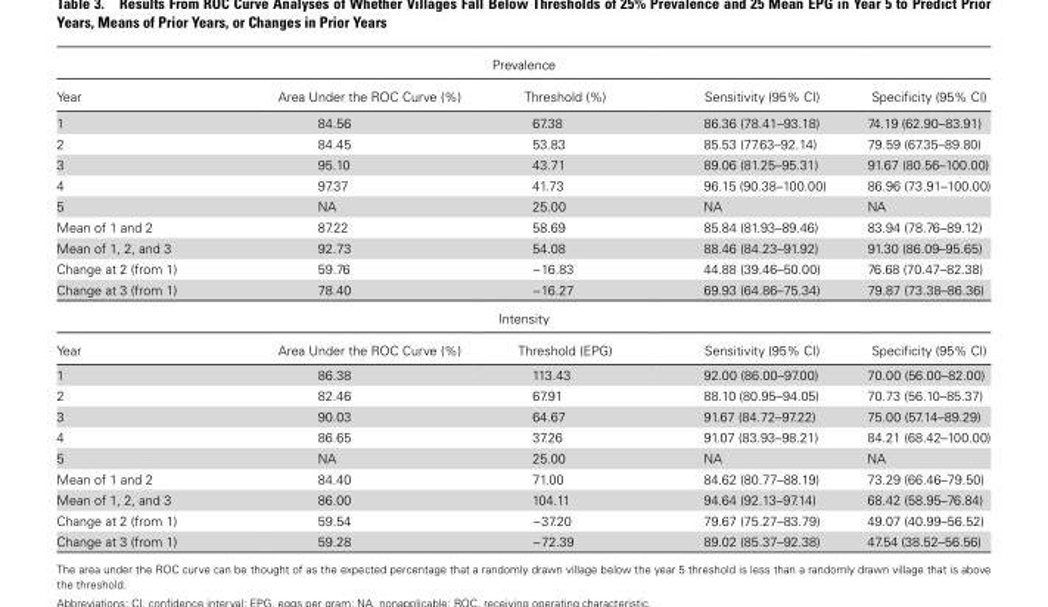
<table><thead><tr><td colspan="5">Prevalence</td></tr><tr><td>Year</td><td>Area Under the ROC Curve (%)</td><td>Threshold (%)</td><td>Sensitivity (95% CI)</td><td>Specificity (95% CI)</td></tr></thead><tbody><tr><td>1</td><td>84.56</td><td>67.38</td><td>86.36 (78.41–93.18)</td><td>74.19 (62.90–83.91)</td></tr><tr><td>2</td><td>84.45</td><td>53.83</td><td>85.53 (77.63–92.14)</td><td>79.59 (67.35–89.80)</td></tr><tr><td>3</td><td>95.10</td><td>43.71</td><td>89.06 (81.25–95.31)</td><td>91.67 (80.56–100.00)</td></tr><tr><td>4</td><td>97.37</td><td>41.73</td><td>96.15 (90.38–100.00)</td><td>86.96 (73.91–100.00)</td></tr><tr><td>5</td><td>NA</td><td>25.00</td><td>NA</td><td>NA</td></tr><tr><td>Mean of 1 and 2</td><td>87.22</td><td>58.69</td><td>85.84 (81.93–89.46)</td><td>83.94 (78.76–89.12)</td></tr><tr><td>Mean of 1, 2, and 3</td><td>92.73</td><td>54.08</td><td>88.46 (84.23–91.92)</td><td>91.30 (86.09–95.65)</td></tr><tr><td>Change at 2 (from 1)</td><td>59.76</td><td>−16.83</td><td>44.88 (39.46–50.00)</td><td>76.68 (70.47–82.38)</td></tr><tr><td>Change at 3 (from 1)</td><td>78.40</td><td>−16.27</td><td>69.93 (64.86–75.34)</td><td>79.87 (73.38–86.36)</td></tr><tr><td colspan="5">Intensity</td></tr><tr><td>Year</td><td>Area Under the ROC Curve (%)</td><td>Threshold (EPG)</td><td>Sensitivity (95% CI)</td><td>Specificity (95% CI)</td></tr><tr><td>1</td><td>86.38</td><td>113.43</td><td>92.00 (86.00–97.00)</td><td>70.00 (56.00–82.00)</td></tr><tr><td>2</td><td>82.46</td><td>67.91</td><td>88.10 (80.95–94.05)</td><td>70.73 (56.10–85.37)</td></tr><tr><td>3</td><td>90.03</td><td>64.67</td><td>91.67 (84.72–97.22)</td><td>75.00 (57.14–89.29)</td></tr><tr><td>4</td><td>86.65</td><td>37.26</td><td>91.07 (83.93–98.21)</td><td>84.21 (68.42–100.00)</td></tr><tr><td>5</td><td>NA</td><td>25.00</td><td>NA</td><td>NA</td></tr><tr><td>Mean of 1 and 2</td><td>84.40</td><td>71.00</td><td>84.62 (80.77–88.19)</td><td>73.29 (66.46–79.50)</td></tr><tr><td>Mean of 1, 2, and 3</td><td>86.00</td><td>104.11</td><td>94.64 (92.13–97.14)</td><td>68.42 (58.95–76.84)</td></tr><tr><td>Change at 2 (from 1)</td><td>59.54</td><td>−37.20</td><td>79.67 (75.27–83.79)</td><td>49.07 (40.99–56.52)</td></tr><tr><td>Change at 3 (from 1)</td><td>59.28</td><td>−72.39</td><td>89.02 (85.37–92.38)</td><td>47.54 (38.52–56.56)</td></tr></tbody></table>